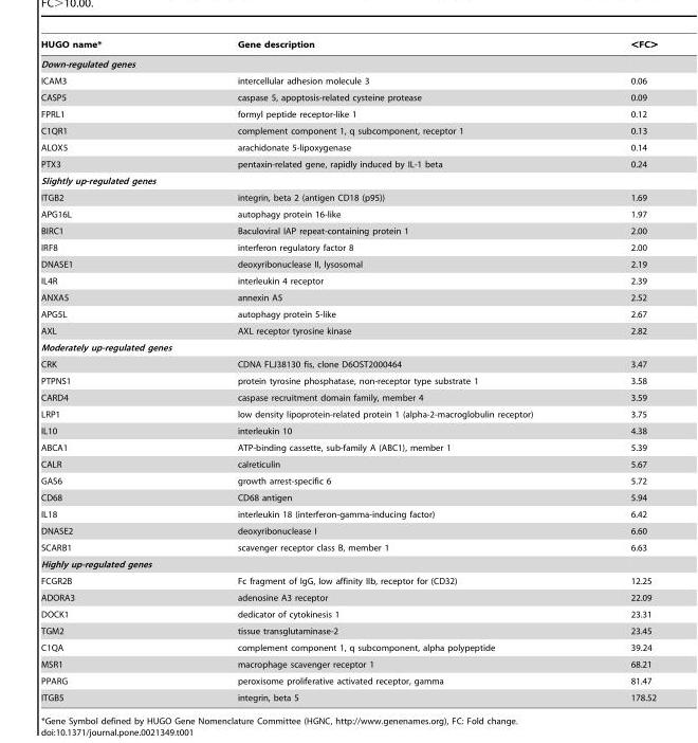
<table><thead><tr><td>HUGO name*</td><td>Gene description</td><td>&lt;FC&gt;</td></tr></thead><tbody><tr><td colspan="3">Down-regulated genes</td></tr><tr><td>ICAM3</td><td>intercellular adhesion molecule 3</td><td>0.06</td></tr><tr><td>CASP5</td><td>caspase 5, apoptosis-related cysteine protease</td><td>0.09</td></tr><tr><td>FPRL1</td><td>formyl peptide receptor-like 1</td><td>0.12</td></tr><tr><td>C1QR1</td><td>complement component 1, q subcomponent, receptor 1</td><td>0.13</td></tr><tr><td>ALOX5</td><td>arachidonate 5-lipoxygenase</td><td>0.14</td></tr><tr><td>PTX3</td><td>pentaxin-related gene, rapidly induced by IL-1 beta</td><td>0.24</td></tr><tr><td colspan="3">Slightly up-regulated genes</td></tr><tr><td>ITGB2</td><td>integrin, beta 2 (antigen CD18 (p95))</td><td>1.69</td></tr><tr><td>APG16L</td><td>autophagy protein 16-like</td><td>1.97</td></tr><tr><td>BIRC1</td><td>Baculoviral IAP repeat-containing protein 1</td><td>2.00</td></tr><tr><td>IRF8</td><td>interferon regulatory factor 8</td><td>2.00</td></tr><tr><td>DNASE1</td><td>deoxyribonuclease II, lysosomal</td><td>2.19</td></tr><tr><td>IL4R</td><td>interleukin 4 receptor</td><td>2.39</td></tr><tr><td>ANXA5</td><td>annexin A5</td><td>2.52</td></tr><tr><td>APG5L</td><td>autophagy protein 5-like</td><td>2.67</td></tr><tr><td>AXL</td><td>AXL receptor tyrosine kinase</td><td>2.82</td></tr><tr><td colspan="3">Moderately up-regulated genes</td></tr><tr><td>CRK</td><td>CDNA FLJ38130 fis, clone D6OST2000464</td><td>3.47</td></tr><tr><td>PTPNS1</td><td>protein tyrosine phosphatase, non-receptor type substrate 1</td><td>3.58</td></tr><tr><td>CARD4</td><td>caspase recruitment domain family, member 4</td><td>3.59</td></tr><tr><td>LRP1</td><td>low density lipoprotein-related protein 1 (alpha-2-macroglobulin receptor)</td><td>3.75</td></tr><tr><td>IL10</td><td>interleukin 10</td><td>4.38</td></tr><tr><td>ABCA1</td><td>ATP-binding cassette, sub-family A (ABC1), member 1</td><td>5.39</td></tr><tr><td>CALR</td><td>calreticulin</td><td>5.67</td></tr><tr><td>GAS6</td><td>growth arrest-specific 6</td><td>5.72</td></tr><tr><td>CD68</td><td>CD68 antigen</td><td>5.94</td></tr><tr><td>IL18</td><td>interleukin 18 (interferon-gamma-inducing factor)</td><td>6.42</td></tr><tr><td>DNASE2</td><td>deoxyribonuclease I</td><td>6.60</td></tr><tr><td>SCARB1</td><td>scavenger receptor class B, member 1</td><td>6.63</td></tr><tr><td colspan="3">Highly up-regulated genes</td></tr><tr><td>FCGR2B</td><td>Fc fragment of IgG, low affinity IIb, receptor for (CD32)</td><td>12.25</td></tr><tr><td>ADORA3</td><td>adenosine A3 receptor</td><td>22.09</td></tr><tr><td>DOCK1</td><td>dedicator of cytokinesis 1</td><td>23.31</td></tr><tr><td>TGM2</td><td>tissue transglutaminase-2</td><td>23.45</td></tr><tr><td>C1QA</td><td>complement component 1, q subcomponent, alpha polypeptide</td><td>39.24</td></tr><tr><td>MSR1</td><td>macrophage scavenger receptor 1</td><td>68.21</td></tr><tr><td>PPARG</td><td>peroxisome proliferative activated receptor, gamma</td><td>81.47</td></tr><tr><td>ITGB5</td><td>integrin, beta 5</td><td>178.52</td></tr></tbody></table>